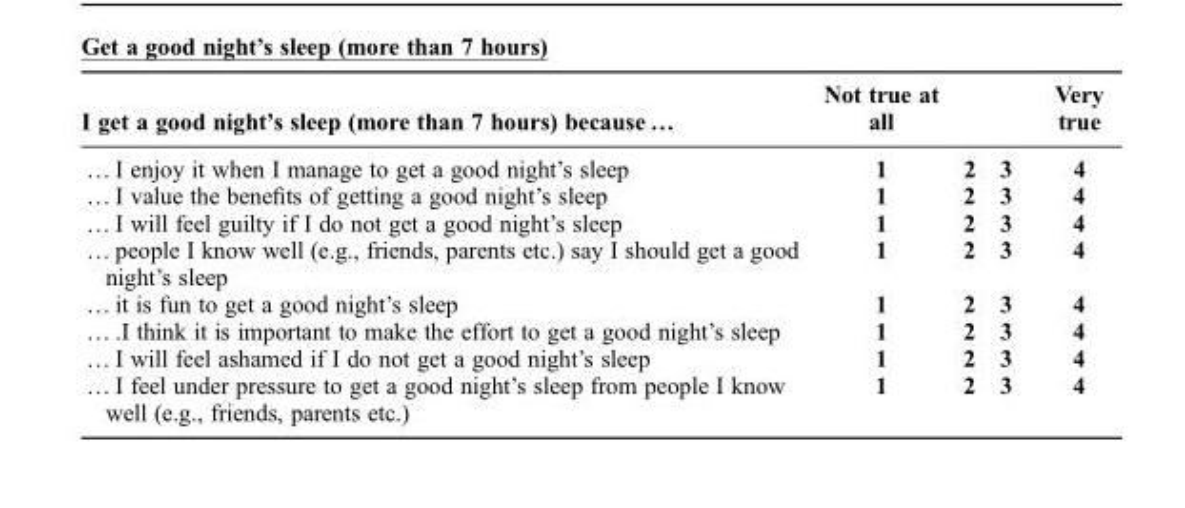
<table><thead><tr><td>I get a good night’s sleep (more than 7 hours) because …</td><td>Not true at all</td><td></td><td></td><td>Very true</td></tr></thead><tbody><tr><td>… I enjoy it when I manage to get a good night’s sleep</td><td>1</td><td>2</td><td>3</td><td>4</td></tr><tr><td>… I value the benefits of getting a good night’s sleep</td><td>1</td><td>2</td><td>3</td><td>4</td></tr><tr><td>… I will feel guilty if I do not get a good night’s sleep</td><td>1</td><td>2</td><td>3</td><td>4</td></tr><tr><td>… people I know well (e.g., friends, parents etc.) say I should get a good night’s sleep</td><td>1</td><td>2</td><td>3</td><td>4</td></tr><tr><td>… it is fun to get a good night’s sleep</td><td>1</td><td>2</td><td>3</td><td>4</td></tr><tr><td>… .I think it is important to make the effort to get a good night’s sleep</td><td>1</td><td>2</td><td>3</td><td>4</td></tr><tr><td>… I will feel ashamed if I do not get a good night’s sleep</td><td>1</td><td>2</td><td>3</td><td>4</td></tr><tr><td>… I feel under pressure to get a good night’s sleep from people I know well (e.g., friends, parents etc.)</td><td>1</td><td>2</td><td>3</td><td>4</td></tr></tbody></table>